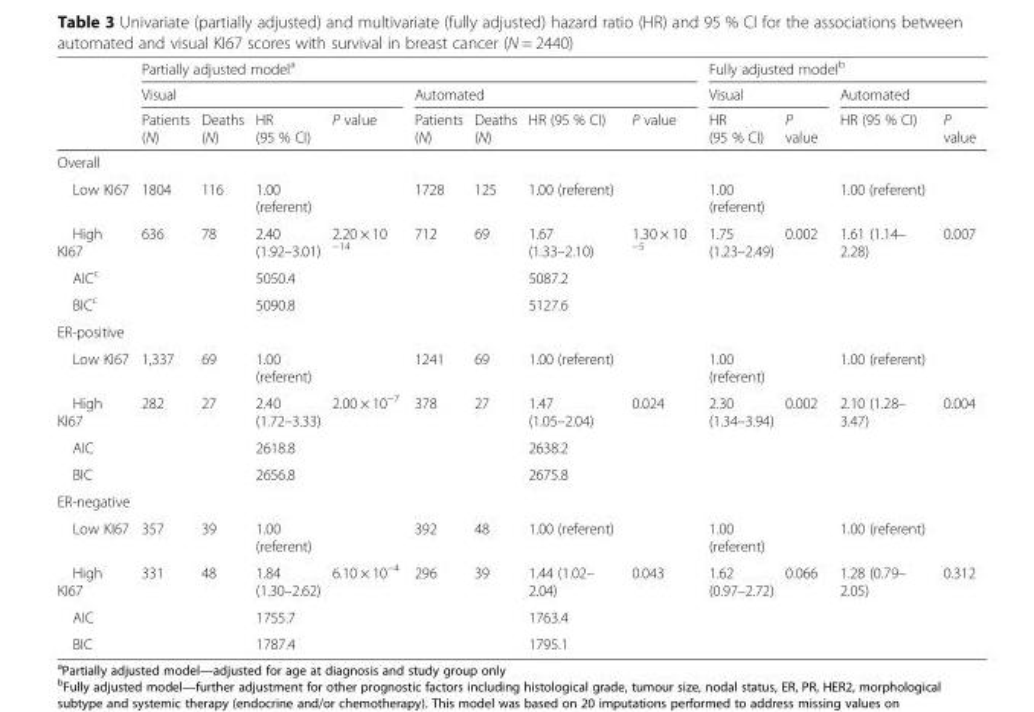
<table><thead><tr><td rowspan="3"></td><td colspan="8">Partially adjusted model<sup>a</sup></td><td colspan="4">Fully adjusted model<sup>b</sup></td></tr><tr><td colspan="4">Visual</td><td colspan="4">Automated</td><td colspan="2">Visual</td><td colspan="2">Automated</td></tr><tr><td>Patients (N)</td><td>Deaths (N)</td><td>HR (95 % CI)</td><td>P value</td><td>Patients (N)</td><td>Deaths (N)</td><td>HR (95 % CI)</td><td>P value</td><td>HR (95 % CI)</td><td>P value</td><td>HR (95 % CI)</td><td>P value</td></tr></thead><tbody><tr><td colspan="13">Overall</td></tr><tr><td>Low KI67</td><td>1804</td><td>116</td><td>1.00 (referent)</td><td></td><td>1728</td><td>125</td><td>1.00 (referent)</td><td></td><td>1.00 (referent)</td><td></td><td>1.00 (referent)</td><td></td></tr><tr><td>High KI67</td><td>636</td><td>78</td><td>2.40 (1.92–3.01)</td><td>2.20 × 10 <sup>−14</sup></td><td>712</td><td>69</td><td>1.67 (1.33–2.10)</td><td>1.30 × 10 <sup>−5</sup></td><td>1.75 (1.23–2.49)</td><td>0.002</td><td>1.61 (1.14– 2.28)</td><td>0.007</td></tr><tr><td>AIC<sup>c</sup></td><td></td><td></td><td>5050.4</td><td></td><td></td><td></td><td>5087.2</td><td></td><td></td><td></td><td></td><td></td></tr><tr><td>BIC<sup>c</sup></td><td></td><td></td><td>5090.8</td><td></td><td></td><td></td><td>5127.6</td><td></td><td></td><td></td><td></td><td></td></tr><tr><td colspan="13">ER-positive</td></tr><tr><td>Low KI67</td><td>1,337</td><td>69</td><td>1.00 (referent)</td><td></td><td>1241</td><td>69</td><td>1.00 (referent)</td><td></td><td>1.00 (referent)</td><td></td><td>1.00 (referent)</td><td></td></tr><tr><td>High KI67</td><td>282</td><td>27</td><td>2.40 (1.72–3.33)</td><td>2.00 × 10<sup>−7</sup></td><td>378</td><td>27</td><td>1.47 (1.05–2.04)</td><td>0.024</td><td>2.30 (1.34–3.94)</td><td>0.002</td><td>2.10 (1.28– 3.47)</td><td>0.004</td></tr><tr><td>AIC</td><td></td><td></td><td>2618.8</td><td></td><td></td><td></td><td>2638.2</td><td></td><td></td><td></td><td></td><td></td></tr><tr><td>BIC</td><td></td><td></td><td>2656.8</td><td></td><td></td><td></td><td>2675.8</td><td></td><td></td><td></td><td></td><td></td></tr><tr><td colspan="13">ER-negative</td></tr><tr><td>Low KI67</td><td>357</td><td>39</td><td>1.00 (referent)</td><td></td><td>392</td><td>48</td><td>1.00 (referent)</td><td></td><td>1.00 (referent)</td><td></td><td>1.00 (referent)</td><td></td></tr><tr><td>High KI67</td><td>331</td><td>48</td><td>1.84 (1.30–2.62)</td><td>6.10 × 10<sup>−4</sup></td><td>296</td><td>39</td><td>1.44 (1.02– 2.04)</td><td>0.043</td><td>1.62 (0.97–2.72)</td><td>0.066</td><td>1.28 (0.79– 2.05)</td><td>0.312</td></tr><tr><td>AIC</td><td></td><td></td><td>1755.7</td><td></td><td></td><td></td><td>1763.4</td><td></td><td></td><td></td><td></td><td></td></tr><tr><td>BIC</td><td></td><td></td><td>1787.4</td><td></td><td></td><td></td><td>1795.1</td><td></td><td></td><td></td><td></td><td></td></tr></tbody></table>